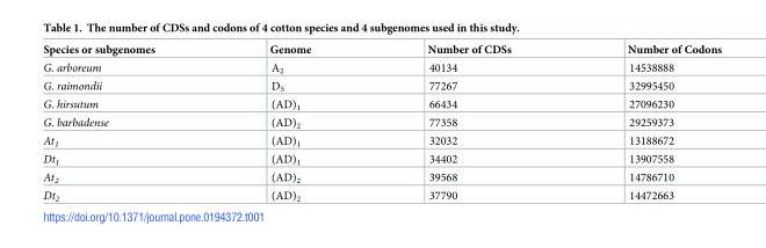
<table><thead><tr><td>Species or subgenomes</td><td>Genome</td><td>Number of CDSs</td><td>Number of Codons</td></tr></thead><tbody><tr><td>G. arboreum</td><td>A<sub>2</sub></td><td>40134</td><td>14538888</td></tr><tr><td>G. raimondii</td><td>D<sub>5</sub></td><td>77267</td><td>32995450</td></tr><tr><td>G. hirsutum</td><td>(AD)<sub>1</sub></td><td>66434</td><td>27096230</td></tr><tr><td>G. barbadense</td><td>(AD)<sub>2</sub></td><td>77358</td><td>29259373</td></tr><tr><td>At<sub>1</sub></td><td>(AD)<sub>1</sub></td><td>32032</td><td>13188672</td></tr><tr><td>Dt<sub>1</sub></td><td>(AD)<sub>1</sub></td><td>34402</td><td>13907558</td></tr><tr><td>At<sub>2</sub></td><td>(AD)<sub>2</sub></td><td>39568</td><td>14786710</td></tr><tr><td>Dt<sub>2</sub></td><td>(AD)<sub>2</sub></td><td>37790</td><td>14472663</td></tr></tbody></table>